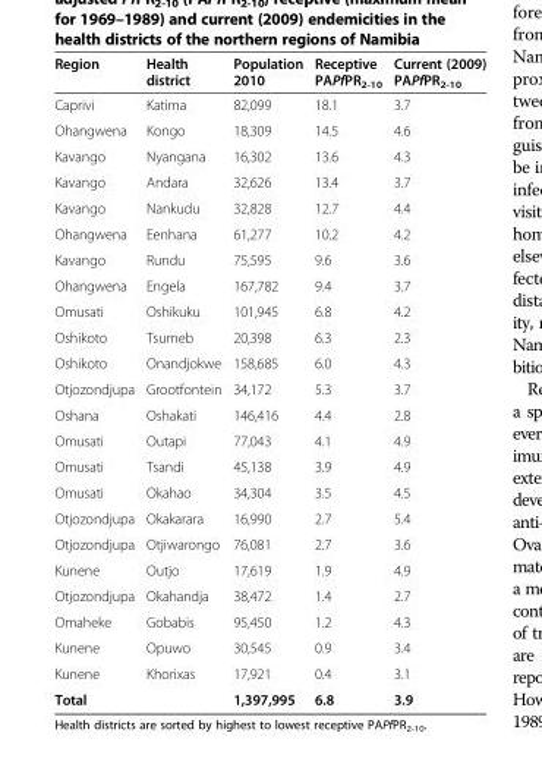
<table><thead><tr><td>Region</td><td>Health district</td><td>Population 2010</td><td>Receptive PAPfPR<sub>2-10</sub></td><td>Current (2009) PAPfPR<sub>2-10</sub></td></tr></thead><tbody><tr><td>Caprivi</td><td>Katima</td><td>82,099</td><td>18.1</td><td>3.7</td></tr><tr><td>Ohangwena</td><td>Kongo</td><td>18,309</td><td>14.5</td><td>4.6</td></tr><tr><td>Kavango</td><td>Nyangana</td><td>16,302</td><td>13.6</td><td>4.3</td></tr><tr><td>Kavango</td><td>Andara</td><td>32,626</td><td>13.4</td><td>3.7</td></tr><tr><td>Kavango</td><td>Nankudu</td><td>32,828</td><td>12.7</td><td>4.4</td></tr><tr><td>Ohangwena</td><td>Eenhana</td><td>61,277</td><td>10.2</td><td>4.2</td></tr><tr><td>Kavango</td><td>Rundu</td><td>75,595</td><td>9.6</td><td>3.6</td></tr><tr><td>Ohangwena</td><td>Engela</td><td>167,782</td><td>9.4</td><td>3.7</td></tr><tr><td>Omusati</td><td>Oshikuku</td><td>101,945</td><td>6.8</td><td>4.2</td></tr><tr><td>Oshikoto</td><td>Tsumeb</td><td>20,398</td><td>6.3</td><td>2.3</td></tr><tr><td>Oshikoto</td><td>Onandjokwe</td><td>158,685</td><td>6.0</td><td>4.3</td></tr><tr><td>Otjozondjupa</td><td>Grootfontein</td><td>34,172</td><td>5.3</td><td>3.7</td></tr><tr><td>Oshana</td><td>Oshakati</td><td>146,416</td><td>4.4</td><td>2.8</td></tr><tr><td>Omusati</td><td>Outapi</td><td>77,043</td><td>4.1</td><td>4.9</td></tr><tr><td>Omusati</td><td>Tsandi</td><td>45,138</td><td>3.9</td><td>4.9</td></tr><tr><td>Omusati</td><td>Okahao</td><td>34,304</td><td>3.5</td><td>4.5</td></tr><tr><td>Otjozondjupa</td><td>Okakarara</td><td>16,990</td><td>2.7</td><td>5.4</td></tr><tr><td>Otjozondjupa</td><td>Otjiwarongo</td><td>76,081</td><td>2.7</td><td>3.6</td></tr><tr><td>Kunene</td><td>Outjo</td><td>17,619</td><td>1.9</td><td>4.9</td></tr><tr><td>Otjozondjupa</td><td>Okahandja</td><td>38,472</td><td>1.4</td><td>2.7</td></tr><tr><td>Omaheke</td><td>Gobabis</td><td>95,450</td><td>1.2</td><td>4.3</td></tr><tr><td>Kunene</td><td>Opuwo</td><td>30,545</td><td>0.9</td><td>3.4</td></tr><tr><td>Kunene</td><td>Khorixas</td><td>17,921</td><td>0.4</td><td>3.1</td></tr><tr><td>Total</td><td></td><td>1,397,995</td><td>6.8</td><td>3.9</td></tr></tbody></table>